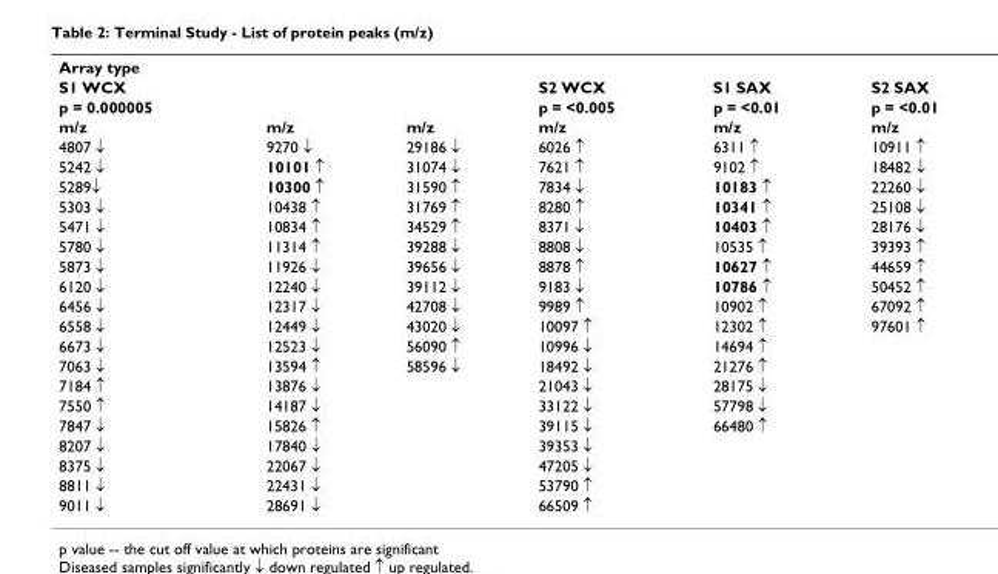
<table><tbody><tr><td colspan="6">Array type</td></tr><tr><td>S1 WCX</td><td></td><td></td><td>S2 WCX</td><td>S1 SAX</td><td>S2 SAX</td></tr><tr><td>p = 0.000005</td><td></td><td></td><td>p = &lt;0.005</td><td>p = &lt;0.01</td><td>p = &lt;0.01</td></tr><tr><td>m/z</td><td>m/z</td><td>m/z</td><td>m/z</td><td>m/z</td><td>m/z</td></tr><tr><td>4807 ↓</td><td>9270 ↓</td><td>29186 ↓</td><td>6026 ↑</td><td>6311 ↑</td><td>10911 ↑</td></tr><tr><td>5242 ↓</td><td>10101 ↑</td><td>31074 ↓</td><td>7621 ↑</td><td>9102 ↑</td><td>18482 ↓</td></tr><tr><td>5289↓</td><td>10300 ↑</td><td>31590 ↑</td><td>7834 ↓</td><td>10183 ↑</td><td>22260 ↓</td></tr><tr><td>5303 ↓</td><td>10438 ↑</td><td>31769 ↑</td><td>8280 ↑</td><td>10341 ↑</td><td>25108 ↓</td></tr><tr><td>5471 ↓</td><td>10834 ↑</td><td>34529 ↑</td><td>8371 ↓</td><td>10403 ↑</td><td>28176 ↓</td></tr><tr><td>5780 ↓</td><td>11314 ↑</td><td>39288 ↓</td><td>8808 ↓</td><td>10535 ↑</td><td>39393 ↑</td></tr><tr><td>5873 ↓</td><td>11926 ↓</td><td>39656 ↓</td><td>8878 ↑</td><td>10627 ↑</td><td>44659 ↑</td></tr><tr><td>6120 ↓</td><td>12240 ↓</td><td>39112 ↓</td><td>9183 ↓</td><td>10786 ↑</td><td>50452 ↑</td></tr><tr><td>6456 ↓</td><td>12317 ↓</td><td>42708 ↓</td><td>9989 ↑</td><td>10902 ↑</td><td>67092 ↑</td></tr><tr><td>6558 ↓</td><td>12449 ↓</td><td>43020 ↓</td><td>10097 ↑</td><td>12302 ↑</td><td>97601 ↑</td></tr><tr><td>6673 ↓</td><td>12523 ↓</td><td>56090 ↑</td><td>10996 ↓</td><td>14694 ↑</td><td></td></tr><tr><td>7063 ↓</td><td>13594 ↑</td><td>58596 ↓</td><td>18492 ↓</td><td>21276 ↑</td><td></td></tr><tr><td>7184 ↑</td><td>13876 ↓</td><td></td><td>21043 ↓</td><td>28175 ↓</td><td></td></tr><tr><td>7550 ↑</td><td>14187 ↓</td><td></td><td>33122 ↓</td><td>57798 ↓</td><td></td></tr><tr><td>7847 ↓</td><td>15826 ↑</td><td></td><td>39115 ↓</td><td>66480 ↑</td><td></td></tr><tr><td>8207 ↓</td><td>17840 ↓</td><td></td><td>39353 ↓</td><td></td><td></td></tr><tr><td>8375 ↓</td><td>22067 ↓</td><td></td><td>47205 ↓</td><td></td><td></td></tr><tr><td>8811 ↓</td><td>22431 ↓</td><td></td><td>53790 ↑</td><td></td><td></td></tr><tr><td>9011 ↓</td><td>28691 ↓</td><td></td><td>66509 ↑</td><td></td><td></td></tr></tbody></table>